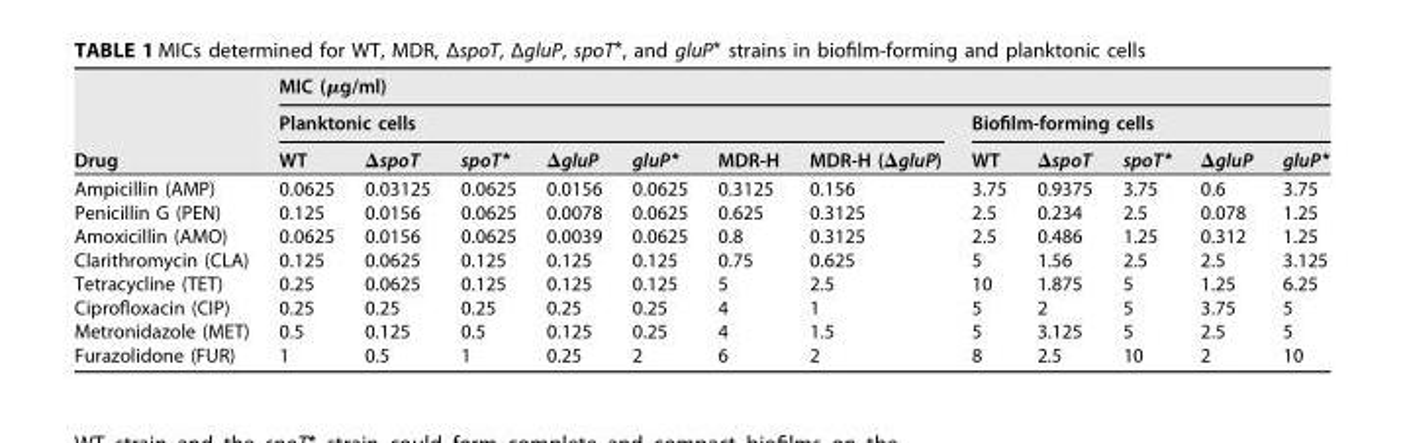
<table><thead><tr><td rowspan="3">Drug</td><td colspan="12">MIC (μg/ml)</td></tr><tr><td colspan="7">Planktonic cells</td><td colspan="5">Biofilm-forming cells</td></tr><tr><td>WT</td><td>ΔspoT</td><td>spoT*</td><td>ΔgluP</td><td>gluP*</td><td>MDR-H</td><td>MDR-H (ΔgluP)</td><td>WT</td><td>ΔspoT</td><td>spoT*</td><td>ΔgluP</td><td>gluP*</td></tr></thead><tbody><tr><td>Ampicillin (AMP)</td><td>0.0625</td><td>0.03125</td><td>0.0625</td><td>0.0156</td><td>0.0625</td><td>0.3125</td><td>0.156</td><td>3.75</td><td>0.9375</td><td>3.75</td><td>0.6</td><td>3.75</td></tr><tr><td>Penicillin G (PEN)</td><td>0.125</td><td>0.0156</td><td>0.0625</td><td>0.0078</td><td>0.0625</td><td>0.625</td><td>0.3125</td><td>2.5</td><td>0.234</td><td>2.5</td><td>0.078</td><td>1.25</td></tr><tr><td>Amoxicillin (AMO)</td><td>0.0625</td><td>0.0156</td><td>0.0625</td><td>0.0039</td><td>0.0625</td><td>0.8</td><td>0.3125</td><td>2.5</td><td>0.486</td><td>1.25</td><td>0.312</td><td>1.25</td></tr><tr><td>Clarithromycin (CLA)</td><td>0.125</td><td>0.0625</td><td>0.125</td><td>0.125</td><td>0.125</td><td>0.75</td><td>0.625</td><td>5</td><td>1.56</td><td>2.5</td><td>2.5</td><td>3.125</td></tr><tr><td>Tetracycline (TET)</td><td>0.25</td><td>0.0625</td><td>0.125</td><td>0.125</td><td>0.125</td><td>5</td><td>2.5</td><td>10</td><td>1.875</td><td>5</td><td>1.25</td><td>6.25</td></tr><tr><td>Ciprofloxacin (CIP)</td><td>0.25</td><td>0.25</td><td>0.25</td><td>0.25</td><td>0.25</td><td>4</td><td>1</td><td>5</td><td>2</td><td>5</td><td>3.75</td><td>5</td></tr><tr><td>Metronidazole (MET)</td><td>0.5</td><td>0.125</td><td>0.5</td><td>0.125</td><td>0.25</td><td>4</td><td>1.5</td><td>5</td><td>3.125</td><td>5</td><td>2.5</td><td>5</td></tr><tr><td>Furazolidone (FUR)</td><td>1</td><td>0.5</td><td>1</td><td>0.25</td><td>2</td><td>6</td><td>2</td><td>8</td><td>2.5</td><td>10</td><td>2</td><td>10</td></tr></tbody></table>